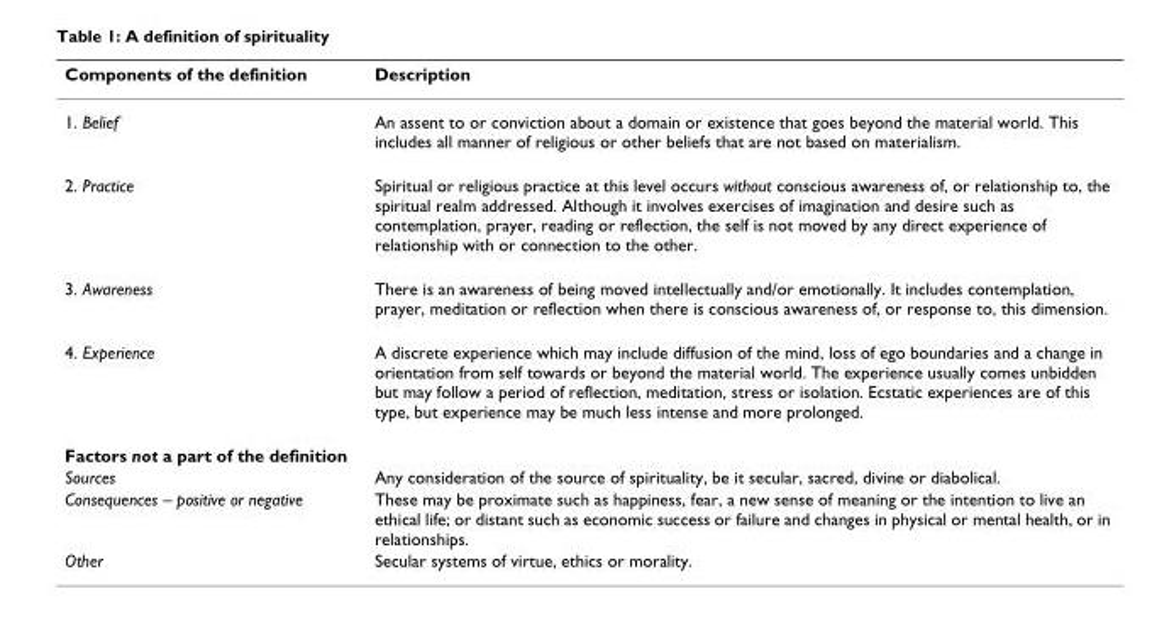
<table><thead><tr><td>Components of the definition</td><td>Description</td></tr></thead><tbody><tr><td>1. Belief</td><td>An assent to or conviction about a domain or existence that goes beyond the material world. This includes all manner of religious or other beliefs that are not based on materialism.</td></tr><tr><td>2. Practice</td><td>Spiritual or religious practice at this level occurs without conscious awareness of, or relationship to, the spiritual realm addressed. Although it involves exercises of imagination and desire such as contemplation, prayer, reading or reflection, the self is not moved by any direct experience of relationship with or connection to the other.</td></tr><tr><td>3. Awareness</td><td>There is an awareness of being moved intellectually and/or emotionally. It includes contemplation, prayer, meditation or reflection when there is conscious awareness of, or response to, this dimension.</td></tr><tr><td>4. Experience</td><td>A discrete experience which may include diffusion of the mind, loss of ego boundaries and a change in orientation from self towards or beyond the material world. The experience usually comes unbidden but may follow a period of reflection, meditation, stress or isolation. Ecstatic experiences are of this type, but experience may be much less intense and more prolonged.</td></tr><tr><td colspan="2">Factors not a part of the definition</td></tr><tr><td>Sources</td><td>Any consideration of the source of spirituality, be it secular, sacred, divine or diabolical.</td></tr><tr><td>Consequences – positive or negative</td><td>These may be proximate such as happiness, fear, a new sense of meaning or the intention to live an ethical life; or distant such as economic success or failure and changes in physical or mental health, or in relationships.</td></tr><tr><td>Other</td><td>Secular systems of virtue, ethics or morality.</td></tr></tbody></table>